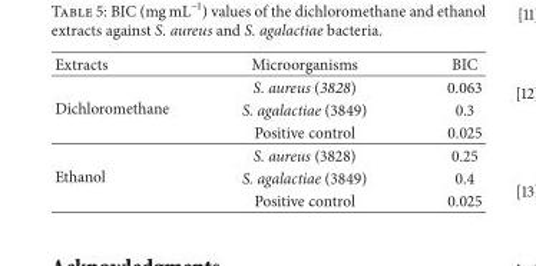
<table><thead><tr><td>Extracts</td><td>Microorganisms</td><td>BIC</td></tr></thead><tbody><tr><td rowspan="3">Dichloromethane</td><td>S. aureus (3828)</td><td>0.063</td></tr><tr><td>S. agalactiae (3849)</td><td>0.3</td></tr><tr><td>Positive control</td><td>0.025</td></tr><tr><td rowspan="3">Ethanol</td><td>S. aureus (3828)</td><td>0.25</td></tr><tr><td>S. agalactiae (3849)</td><td>0.4</td></tr><tr><td>Positive control</td><td>0.025</td></tr></tbody></table>